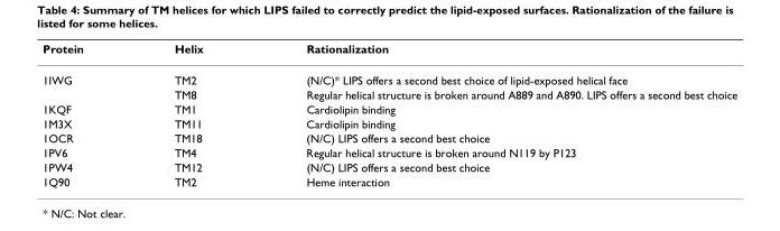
<table><thead><tr><td>Protein</td><td>Helix</td><td>Rationalization</td></tr></thead><tbody><tr><td rowspan="2">1IWG</td><td>TM2</td><td>(N/C)* LIPS offers a second best choice of lipid-exposed helical face</td></tr><tr><td>TM8</td><td>Regular helical structure is broken around A889 and A890. LIPS offers a second best choice</td></tr><tr><td>1KQF</td><td>TM1</td><td>Cardiolipin binding</td></tr><tr><td>1M3X</td><td>TM11</td><td>Cardiolipin binding</td></tr><tr><td>1OCR</td><td>TM18</td><td>(N/C) LIPS offers a second best choice</td></tr><tr><td>1PV6</td><td>TM4</td><td>Regular helical structure is broken around N119 by P123</td></tr><tr><td>1PW4</td><td>TM12</td><td>(N/C) LIPS offers a second best choice</td></tr><tr><td>1Q90</td><td>TM2</td><td>Heme interaction</td></tr></tbody></table>